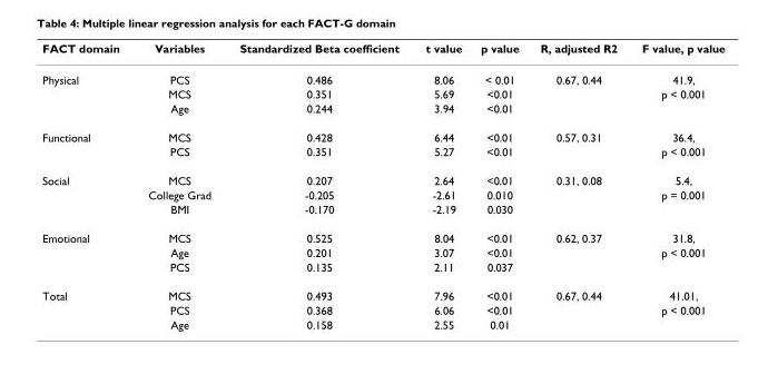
<table><thead><tr><td>FACT domain</td><td>Variables</td><td>Standardized Beta coefficient</td><td>t value</td><td>p value</td><td>R, adjusted R2</td><td>F value, p value</td></tr></thead><tbody><tr><td rowspan="3">Physical</td><td>PCS</td><td>0.486</td><td>8.06</td><td>&lt; 0.01</td><td>0.67, 0.44</td><td>41.9,</td></tr><tr><td>MCS</td><td>0.351</td><td>5.69</td><td>&lt;0.01</td><td></td><td>p &lt; 0.001</td></tr><tr><td>Age</td><td>0.244</td><td>3.94</td><td>&lt;0.01</td><td></td><td></td></tr><tr><td rowspan="2">Functional</td><td>MCS</td><td>0.428</td><td>6.44</td><td>&lt;0.01</td><td>0.57, 0.31</td><td>36.4,</td></tr><tr><td>PCS</td><td>0.351</td><td>5.27</td><td>&lt;0.01</td><td></td><td>p &lt; 0.001</td></tr><tr><td rowspan="3">Social</td><td>MCS</td><td>0.207</td><td>2.64</td><td>&lt;0.01</td><td>0.31, 0.08</td><td>5.4,</td></tr><tr><td>College Grad</td><td>-0.205</td><td>-2.61</td><td>0.010</td><td></td><td>p = 0.001</td></tr><tr><td>BMI</td><td>-0.170</td><td>-2.19</td><td>0.030</td><td></td><td></td></tr><tr><td rowspan="3">Emotional</td><td>MCS</td><td>0.525</td><td>8.04</td><td>&lt;0.01</td><td>0.62, 0.37</td><td>31.8,</td></tr><tr><td>Age</td><td>0.201</td><td>3.07</td><td>&lt;0.01</td><td></td><td>p &lt; 0.001</td></tr><tr><td>PCS</td><td>0.135</td><td>2.11</td><td>0.037</td><td></td><td></td></tr><tr><td rowspan="3">Total</td><td>MCS</td><td>0.493</td><td>7.96</td><td>&lt;0.01</td><td>0.67, 0.44</td><td>41.01,</td></tr><tr><td>PCS</td><td>0.368</td><td>6.06</td><td>&lt;0.01</td><td></td><td>p &lt; 0.001</td></tr><tr><td>Age</td><td>0.158</td><td>2.55</td><td>0.01</td><td></td><td></td></tr></tbody></table>